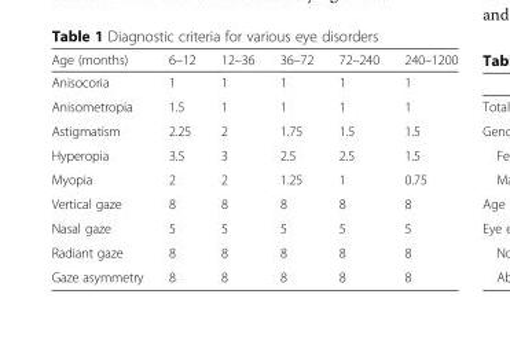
<table><thead><tr><td>Age (months)</td><td>6–12</td><td>12–36</td><td>36–72</td><td>72–240</td><td>240–1200</td></tr></thead><tbody><tr><td>Anisocoria</td><td>1</td><td>1</td><td>1</td><td>1</td><td>1</td></tr><tr><td>Anisometropia</td><td>1.5</td><td>1</td><td>1</td><td>1</td><td>1</td></tr><tr><td>Astigmatism</td><td>2.25</td><td>2</td><td>1.75</td><td>1.5</td><td>1.5</td></tr><tr><td>Hyperopia</td><td>3.5</td><td>3</td><td>2.5</td><td>2.5</td><td>1.5</td></tr><tr><td>Myopia</td><td>2</td><td>2</td><td>1.25</td><td>1</td><td>0.75</td></tr><tr><td>Vertical gaze</td><td>8</td><td>8</td><td>8</td><td>8</td><td>8</td></tr><tr><td>Nasal gaze</td><td>5</td><td>5</td><td>5</td><td>5</td><td>5</td></tr><tr><td>Radiant gaze</td><td>8</td><td>8</td><td>8</td><td>8</td><td>8</td></tr><tr><td>Gaze asymmetry</td><td>8</td><td>8</td><td>8</td><td>8</td><td>8</td></tr></tbody></table>